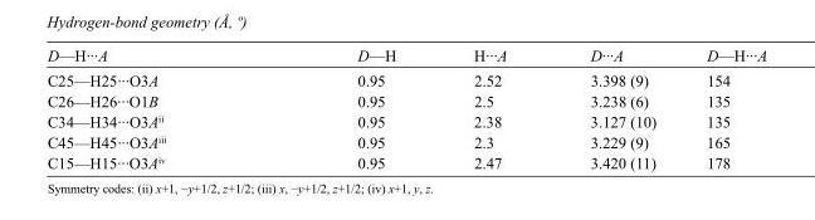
<table><tbody><tr><td>D—H···A</td><td>D—H</td><td>H···A</td><td>D···A</td><td>D—H···A</td></tr><tr><td>C25—H25···O3A</td><td>0.95</td><td>2.52</td><td>3.398 (9)</td><td>154</td></tr><tr><td>C26—H26···O1B</td><td>0.95</td><td>2.5</td><td>3.238 (6)</td><td>135</td></tr><tr><td>C34—H34···O3A<sup>ii</sup></td><td>0.95</td><td>2.38</td><td>3.127 (10)</td><td>135</td></tr><tr><td>C45—H45···O3A<sup>iii</sup></td><td>0.95</td><td>2.3</td><td>3.229 (9)</td><td>165</td></tr><tr><td>C15—H15···O3A<sup>iv</sup></td><td>0.95</td><td>2.47</td><td>3.420 (11)</td><td>178</td></tr></tbody></table>